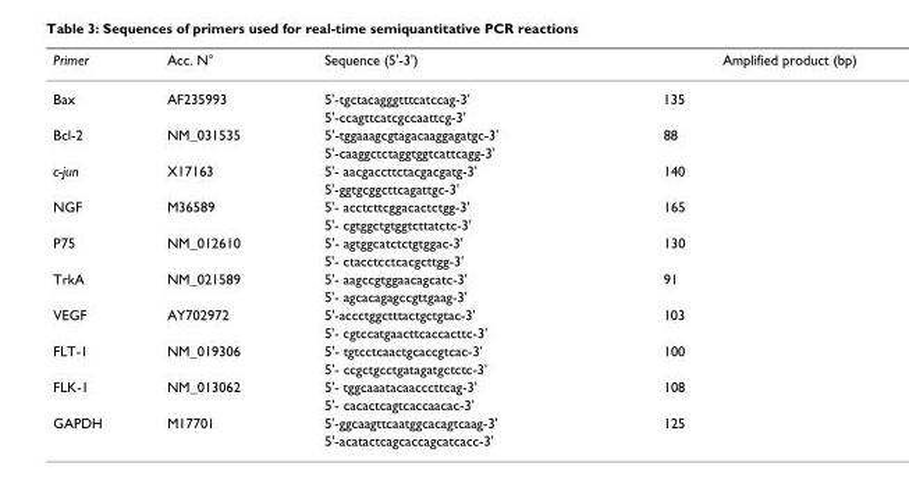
<table><thead><tr><td>Primer</td><td>Acc. N°</td><td>Sequence (5&#x27;-3&#x27;)</td><td>Amplified product (bp)</td></tr></thead><tbody><tr><td rowspan="2">Bax</td><td>AF235993</td><td>5&#x27;-tgctacagggtttcatccag-3&#x27;</td><td>135</td></tr><tr><td></td><td>5&#x27;-ccagttcatcgccaattcg-3&#x27;</td><td></td></tr><tr><td rowspan="2">Bcl-2</td><td>NM_031535</td><td>5&#x27;-tggaaagcgtagacaaggagatgc-3&#x27;</td><td>88</td></tr><tr><td></td><td>5&#x27;-caaggctctaggtggtcattcagg-3&#x27;</td><td></td></tr><tr><td rowspan="2">c-jun</td><td>X17163</td><td>5&#x27;- aacgaccttctacgacgatg-3&#x27;</td><td>140</td></tr><tr><td></td><td>5&#x27;-ggtgcggcttcagattgc-3&#x27;</td><td></td></tr><tr><td rowspan="2">NGF</td><td>M36589</td><td>5&#x27;- acctcttcggacactctgg-3&#x27;</td><td>165</td></tr><tr><td></td><td>5&#x27;- cgtggctgtggtcttatctc-3&#x27;</td><td></td></tr><tr><td rowspan="2">P75</td><td>NM_012610</td><td>5&#x27;- agtggcatctctgtggac-3&#x27;</td><td>130</td></tr><tr><td></td><td>5&#x27;- ctacctcctcacgcttgg-3&#x27;</td><td></td></tr><tr><td rowspan="2">TrkA</td><td>NM_021589</td><td>5&#x27;- aagccgtggaacagcatc-3&#x27;</td><td>91</td></tr><tr><td></td><td>5&#x27;- agcacagagccgttgaag-3&#x27;</td><td></td></tr><tr><td rowspan="2">VEGF</td><td>AY702972</td><td>5&#x27;-accctggctttactgctgtac-3&#x27;</td><td>103</td></tr><tr><td></td><td>5&#x27;- cgtccatgaacttcaccacttc-3&#x27;</td><td></td></tr><tr><td rowspan="2">FLT-1</td><td>NM_019306</td><td>5&#x27;- tgtcctcaactgcaccgtcac-3&#x27;</td><td>100</td></tr><tr><td></td><td>5&#x27;- ccgctgcctgatagatgctctc-3&#x27;</td><td></td></tr><tr><td rowspan="2">FLK-1</td><td>NM_013062</td><td>5&#x27;- tggcaaatacaacccttcag-3&#x27;</td><td>108</td></tr><tr><td></td><td>5&#x27;- cacactcagtcaccaacac-3&#x27;</td><td></td></tr><tr><td rowspan="2">GAPDH</td><td>M17701</td><td>5&#x27;-ggcaagttcaatggcacagtcaag-3&#x27;</td><td>125</td></tr><tr><td></td><td>5&#x27;-acatactcagcaccagcatcacc-3&#x27;</td><td></td></tr></tbody></table>